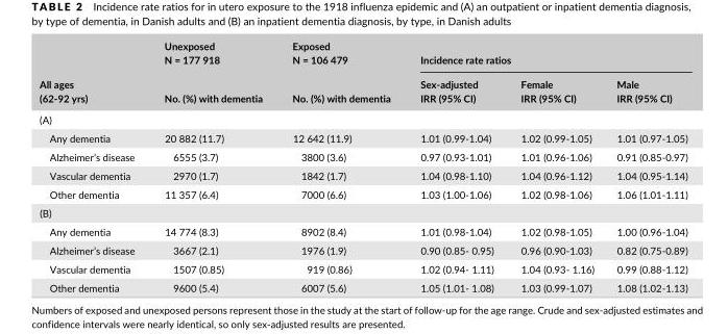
<table><thead><tr><td rowspan="2">All ages (62- 92 yrs)</td><td rowspan="2">Unexposed N = 177 918 No. (%) with dementia</td><td rowspan="2">Exposed N = 106 479 No. (%) with dementia</td><td colspan="3">Incidence rate ratios</td></tr><tr><td>Sex- adjusted IRR (95% CI)</td><td>Female IRR (95% CI)</td><td>Male IRR (95% CI)</td></tr></thead><tbody><tr><td colspan="6">(A)</td></tr><tr><td>Any dementia</td><td>20 882 (11.7)</td><td>12 642 (11.9)</td><td>1.01 (0.99- 1.04)</td><td>1.02 (0.99- 1.05)</td><td>1.01 (0.97- 1.05)</td></tr><tr><td>Alzheimer’s disease</td><td>6555 (3.7)</td><td>3800 (3.6)</td><td>0.97 (0.93- 1.01)</td><td>1.01 (0.96- 1.06)</td><td>0.91 (0.85- 0.97)</td></tr><tr><td>Vascular dementia</td><td>2970 (1.7)</td><td>1842 (1.7)</td><td>1.04 (0.98- 1.10)</td><td>1.04 (0.96- 1.12)</td><td>1.04 (0.95- 1.14)</td></tr><tr><td>Other dementia</td><td>11 357 (6.4)</td><td>7000 (6.6)</td><td>1.03 (1.00- 1.06)</td><td>1.02 (0.98- 1.06)</td><td>1.06 (1.01- 1.11)</td></tr><tr><td colspan="6">(B)</td></tr><tr><td>Any dementia</td><td>14 774 (8.3)</td><td>8902 (8.4)</td><td>1.01 (0.98- 1.04)</td><td>1.02 (0.98- 1.05)</td><td>1.00 (0.96- 1.04)</td></tr><tr><td>Alzheimer’s disease</td><td>3667 (2.1)</td><td>1976 (1.9)</td><td>0.90 (0.85- 0.95)</td><td>0.96 (0.90- 1.03)</td><td>0.82 (0.75- 0.89)</td></tr><tr><td>Vascular dementia</td><td>1507 (0.85)</td><td>919 (0.86)</td><td>1.02 (0.94- 1.11)</td><td>1.04 (0.93- 1.16)</td><td>0.99 (0.88- 1.12)</td></tr><tr><td>Other dementia</td><td>9600 (5.4)</td><td>6007 (5.6)</td><td>1.05 (1.01- 1.08)</td><td>1.03 (0.99- 1.07)</td><td>1.08 (1.02- 1.13)</td></tr></tbody></table>